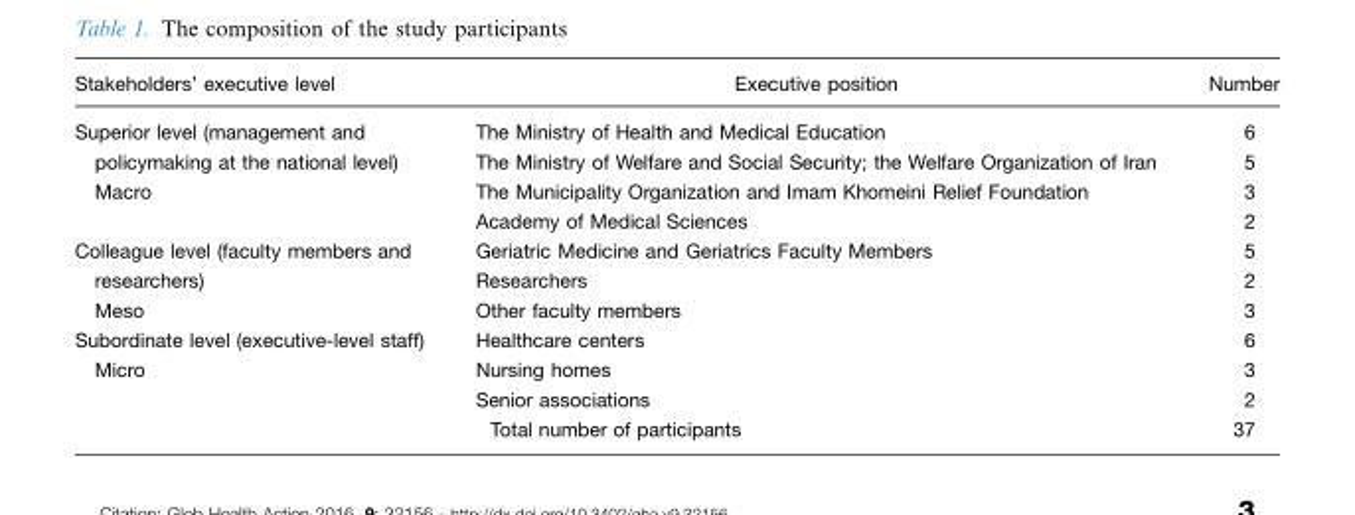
<table><thead><tr><td>Stakeholders’ executive level</td><td>Executive position</td><td>Number</td></tr></thead><tbody><tr><td>Superior level (management and</td><td>The Ministry of Health and Medical Education</td><td>6</td></tr><tr><td>policymaking at the national level)</td><td>The Ministry of Welfare and Social Security; the Welfare Organization of Iran</td><td>5</td></tr><tr><td rowspan="2">Macro</td><td>The Municipality Organization and Imam Khomeini Relief Foundation</td><td>3</td></tr><tr><td>Academy of Medical Sciences</td><td>2</td></tr><tr><td>Colleague level (faculty members and</td><td>Geriatric Medicine and Geriatrics Faculty Members</td><td>5</td></tr><tr><td>researchers)</td><td>Researchers</td><td>2</td></tr><tr><td>Meso</td><td>Other faculty members</td><td>3</td></tr><tr><td>Subordinate level (executive-level staff)</td><td>Healthcare centers</td><td>6</td></tr><tr><td rowspan="2">Micro</td><td>Nursing homes</td><td>3</td></tr><tr><td>Senior associations</td><td>2</td></tr><tr><td colspan="2">Total number of participants</td><td>37</td></tr></tbody></table>